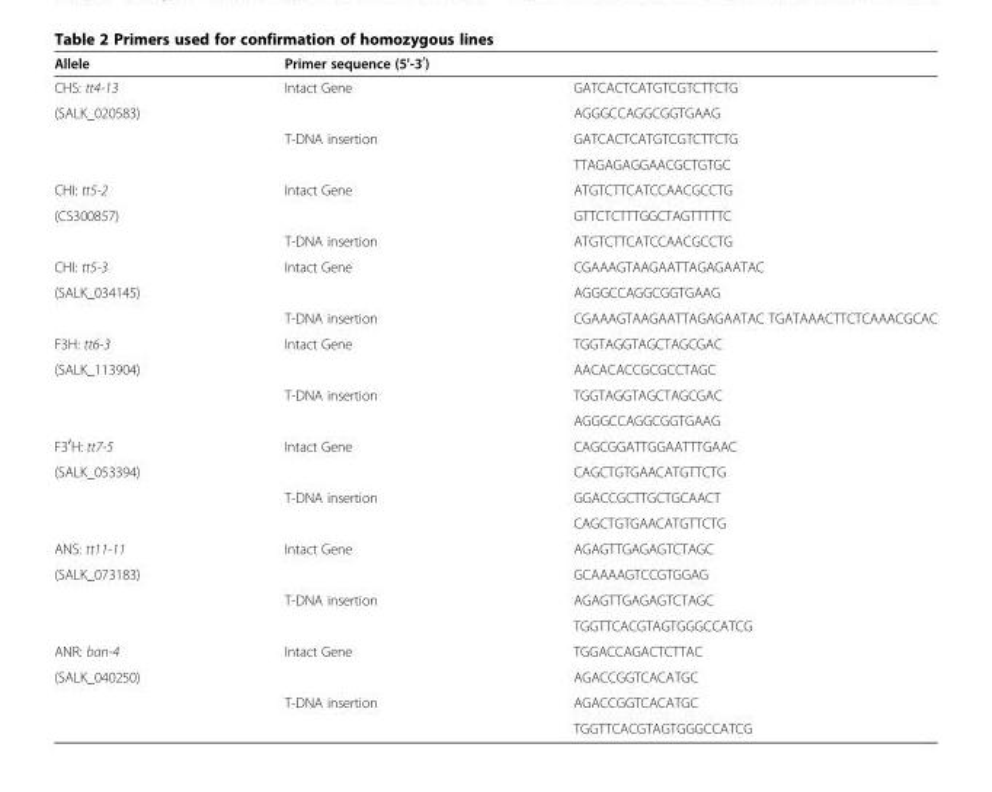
<table><thead><tr><td>Allele</td><td>Primer sequence (5&#x27;-3<sup>′</sup>)</td><td></td></tr></thead><tbody><tr><td>CHS: tt4-13</td><td>Intact Gene</td><td>GATCACTCATGTCGTCTTCTG</td></tr><tr><td rowspan="3">(SALK_020583)</td><td></td><td>AGGGCCAGGCGGTGAAG</td></tr><tr><td>T-DNA insertion</td><td>GATCACTCATGTCGTCTTCTG</td></tr><tr><td></td><td>TTAGAGAGGAACGCTGTGC</td></tr><tr><td>CHI: tt5-2</td><td>Intact Gene</td><td>ATGTCTTCATCCAACGCCTG</td></tr><tr><td rowspan="2">(CS300857)</td><td></td><td>GTTCTCTTTGGCTAGTTTTTC</td></tr><tr><td>T-DNA insertion</td><td>ATGTCTTCATCCAACGCCTG</td></tr><tr><td>CHI: tt5-3</td><td>Intact Gene</td><td>CGAAAGTAAGAATTAGAGAATAC</td></tr><tr><td rowspan="2">(SALK_034145)</td><td></td><td>AGGGCCAGGCGGTGAAG</td></tr><tr><td>T-DNA insertion</td><td>CGAAAGTAAGAATTAGAGAATAC TGATAAACTTCTCAAACGCAC</td></tr><tr><td>F3H: tt6-3</td><td>Intact Gene</td><td>TGGTAGGTAGCTAGCGAC</td></tr><tr><td rowspan="3">(SALK_113904)</td><td></td><td>AACACACCGCGCCTAGC</td></tr><tr><td>T-DNA insertion</td><td>TGGTAGGTAGCTAGCGAC</td></tr><tr><td></td><td>AGGGCCAGGCGGTGAAG</td></tr><tr><td>F3<sup>′</sup>H: tt7-5</td><td>Intact Gene</td><td>CAGCGGATTGGAATTTGAAC</td></tr><tr><td rowspan="3">(SALK_053394)</td><td></td><td>CAGCTGTGAACATGTTCTG</td></tr><tr><td>T-DNA insertion</td><td>GGACCGCTTGCTGCAACT</td></tr><tr><td></td><td>CAGCTGTGAACATGTTCTG</td></tr><tr><td>ANS: tt11-11</td><td>Intact Gene</td><td>AGAGTTGAGAGTCTAGC</td></tr><tr><td rowspan="3">(SALK_073183)</td><td></td><td>GCAAAAGTCCGTGGAG</td></tr><tr><td>T-DNA insertion</td><td>AGAGTTGAGAGTCTAGC</td></tr><tr><td></td><td>TGGTTCACGTAGTGGGCCATCG</td></tr><tr><td>ANR: ban-4</td><td>Intact Gene</td><td>TGGACCAGACTCTTAC</td></tr><tr><td rowspan="3">(SALK_040250)</td><td></td><td>AGACCGGTCACATGC</td></tr><tr><td>T-DNA insertion</td><td>AGACCGGTCACATGC</td></tr><tr><td></td><td>TGGTTCACGTAGTGGGCCATCG</td></tr></tbody></table>